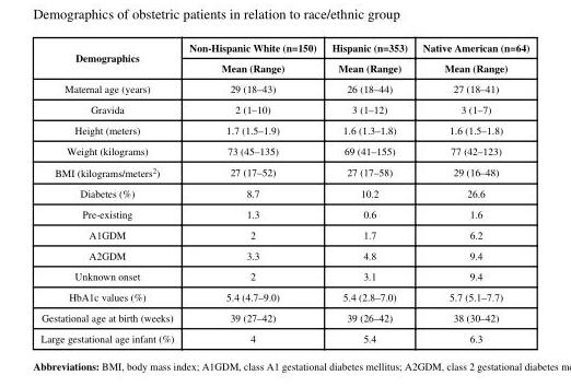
<table><thead><tr><td rowspan="2">Demographics</td><td rowspan="2">Non-Hispanic White (n=150) Mean (Range)</td><td rowspan="2">Hispanic (n=353) Mean (Range)</td><td rowspan="2">Native American (n=64) Mean (Range)</td></tr><tr></tr></thead><tbody><tr><td>Maternal age (years)</td><td>29 (18–43)</td><td>26 (18–44)</td><td>27 (18–41)</td></tr><tr><td>Gravida</td><td>2 (1–10)</td><td>3 (1–12)</td><td>3 (1–7)</td></tr><tr><td>Height (meters)</td><td>1.7 (1.5–1.9)</td><td>1.6 (1.3–1.8)</td><td>1.6 (1.5–1.8)</td></tr><tr><td>Weight (kilograms)</td><td>73 (45–135)</td><td>69 (41–155)</td><td>77 (42–123)</td></tr><tr><td>BMI (kilograms/meters<sup>2</sup>)</td><td>27 (17–52)</td><td>27 (17–58)</td><td>29 (16–48)</td></tr><tr><td>Diabetes (%)</td><td>8.7</td><td>10.2</td><td>26.6</td></tr><tr><td>Pre-existing</td><td>1.3</td><td>0.6</td><td>1.6</td></tr><tr><td>A1GDM</td><td>2</td><td>1.7</td><td>6.2</td></tr><tr><td>A2GDM</td><td>3.3</td><td>4.8</td><td>9.4</td></tr><tr><td>Unknown onset</td><td>2</td><td>3.1</td><td>9.4</td></tr><tr><td>HbA1c values (%)</td><td>5.4 (4.7–9.0)</td><td>5.4 (2.8–7.0)</td><td>5.7 (5.1–7.7)</td></tr><tr><td>Gestational age at birth (weeks)</td><td>39 (27–42)</td><td>39 (26–42)</td><td>38 (30–42)</td></tr><tr><td>Large gestational age infant (%)</td><td>4</td><td>5.4</td><td>6.3</td></tr></tbody></table>